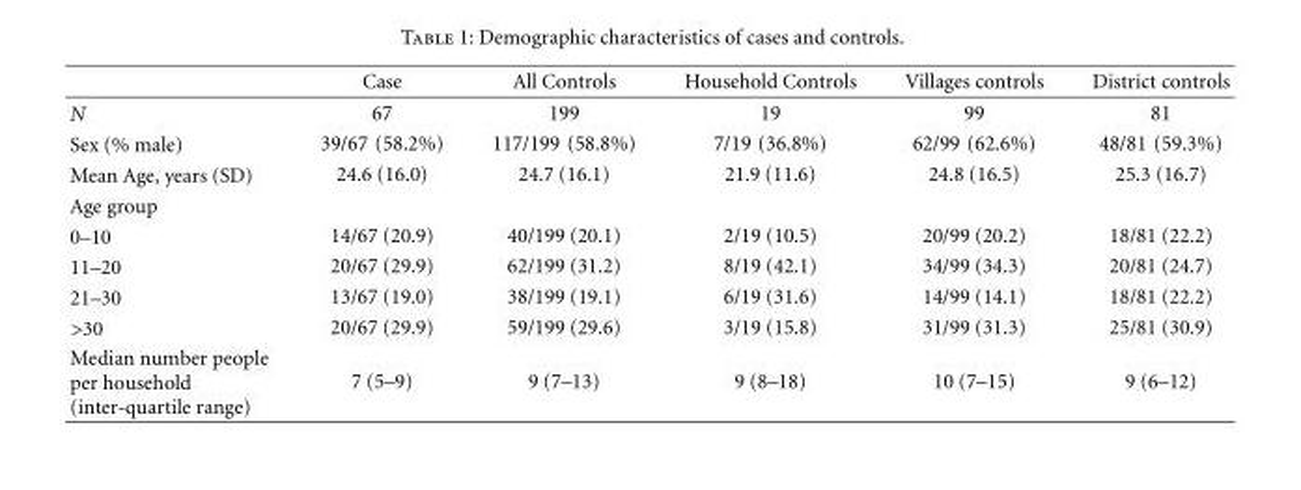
<table><thead><tr><td></td><td>Case</td><td>All Controls</td><td>Household Controls</td><td>Villages controls</td><td>District controls</td></tr></thead><tbody><tr><td>N</td><td>67</td><td>199</td><td>19</td><td>99</td><td>81</td></tr><tr><td>Sex (% male)</td><td>39/67 (58.2%)</td><td>117/199 (58.8%)</td><td>7/19 (36.8%)</td><td>62/99 (62.6%)</td><td>48/81 (59.3%)</td></tr><tr><td>Mean Age, years (SD)</td><td>24.6 (16.0)</td><td>24.7 (16.1)</td><td>21.9 (11.6)</td><td>24.8 (16.5)</td><td>25.3 (16.7)</td></tr><tr><td colspan="6">Age group</td></tr><tr><td>0–10</td><td>14/67 (20.9)</td><td>40/199 (20.1)</td><td>2/19 (10.5)</td><td>20/99 (20.2)</td><td>18/81 (22.2)</td></tr><tr><td>11–20</td><td>20/67 (29.9)</td><td>62/199 (31.2)</td><td>8/19 (42.1)</td><td>34/99 (34.3)</td><td>20/81 (24.7)</td></tr><tr><td>21–30</td><td>13/67 (19.0)</td><td>38/199 (19.1)</td><td>6/19 (31.6)</td><td>14/99 (14.1)</td><td>18/81 (22.2)</td></tr><tr><td>&gt;30</td><td>20/67 (29.9)</td><td>59/199 (29.6)</td><td>3/19 (15.8)</td><td>31/99 (31.3)</td><td>25/81 (30.9)</td></tr><tr><td>Median number people per household (inter-quartile range)</td><td>7 (5–9)</td><td>9 (7–13)</td><td>9 (8–18)</td><td>10 (7–15)</td><td>9 (6–12)</td></tr></tbody></table>